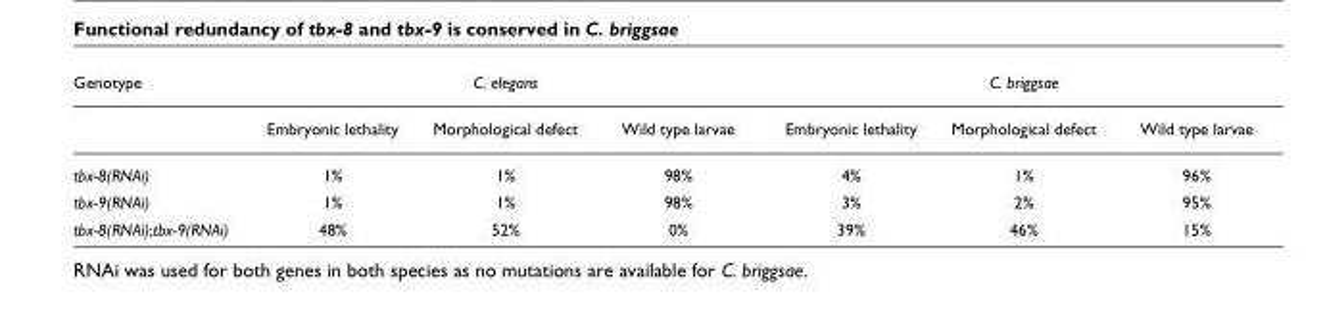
<table><thead><tr><td rowspan="2">Genotype</td><td colspan="3">C. elegans</td><td colspan="3">C. briggsae</td></tr><tr><td>Embryonic lethality</td><td>Morphological defect</td><td>Wild type larvae</td><td>Embryonic lethality</td><td>Morphological defect</td><td>Wild type larvae</td></tr></thead><tbody><tr><td>tbx-8(RNAi)</td><td>1%</td><td>1%</td><td>98%</td><td>4%</td><td>1%</td><td>96%</td></tr><tr><td>tbx-9(RNAi)</td><td>1%</td><td>1%</td><td>98%</td><td>3%</td><td>2%</td><td>95%</td></tr><tr><td>tbx-8(RNAi);tbx-9(RNAi)</td><td>48%</td><td>52%</td><td>0%</td><td>39%</td><td>46%</td><td>15%</td></tr></tbody></table>